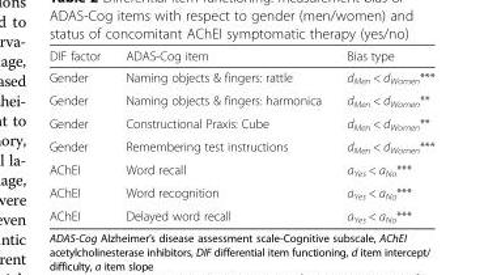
<table><thead><tr><td>DIF factor</td><td>ADAS-Cog item</td><td>Bias type</td></tr></thead><tbody><tr><td>Gender</td><td>Naming objects &amp; fingers: rattle</td><td>d<sub>Men</sub> &lt; d<sub>Women</sub>***</td></tr><tr><td>Gender</td><td>Naming objects &amp; fingers: harmonica</td><td>d<sub>Men</sub> &lt; d<sub>Women</sub>**</td></tr><tr><td>Gender</td><td>Constructional Praxis: Cube</td><td>d<sub>Men</sub> &lt; d<sub>Women</sub>**</td></tr><tr><td>Gender</td><td>Remembering test instructions</td><td>d<sub>Men</sub> &lt; d<sub>Women</sub>***</td></tr><tr><td>AChEI</td><td>Word recall</td><td>a<sub>Yes</sub> &lt; a<sub>No</sub>***</td></tr><tr><td>AChEI</td><td>Word recognition</td><td>a<sub>Yes</sub> &lt; a<sub>No</sub>***</td></tr><tr><td>AChEI</td><td>Delayed word recall</td><td>a<sub>Yes</sub> &lt; a<sub>No</sub>***</td></tr></tbody></table>